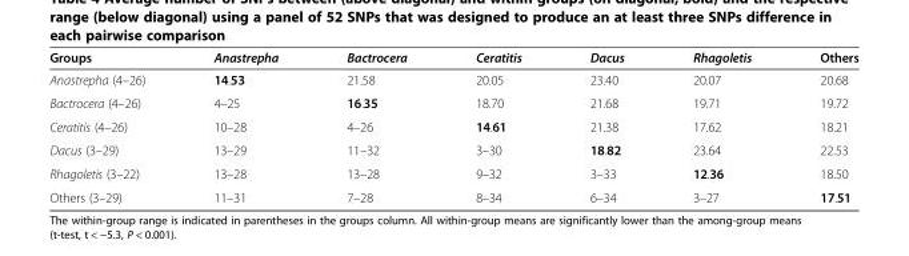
<table><thead><tr><td>Groups</td><td>Anastrepha</td><td>Bactrocera</td><td>Ceratitis</td><td>Dacus</td><td>Rhagoletis</td><td>Others</td></tr></thead><tbody><tr><td>Anastrepha (4–26)</td><td>14.53</td><td>21.58</td><td>20.05</td><td>23.40</td><td>20.07</td><td>20.68</td></tr><tr><td>Bactrocera (4–26)</td><td>4–25</td><td>16.35</td><td>18.70</td><td>21.68</td><td>19.71</td><td>19.72</td></tr><tr><td>Ceratitis (4–26)</td><td>10–28</td><td>4–26</td><td>14.61</td><td>21.38</td><td>17.62</td><td>18.21</td></tr><tr><td>Dacus (3–29)</td><td>13–29</td><td>11–32</td><td>3–30</td><td>18.82</td><td>23.64</td><td>22.53</td></tr><tr><td>Rhagoletis (3–22)</td><td>13–28</td><td>13–28</td><td>9–32</td><td>3–33</td><td>12.36</td><td>18.50</td></tr><tr><td>Others (3–29)</td><td>11–31</td><td>7–28</td><td>8–34</td><td>6–34</td><td>3–27</td><td>17.51</td></tr></tbody></table>